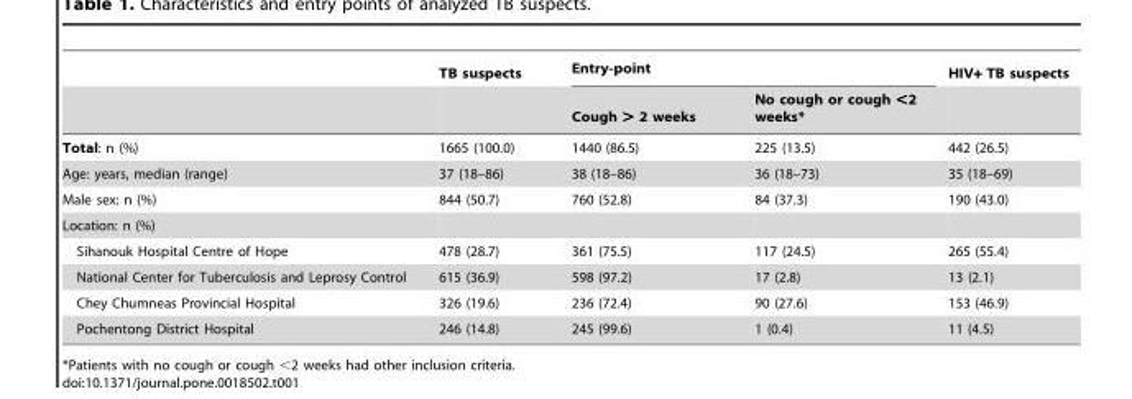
<table><thead><tr><td rowspan="2"></td><td rowspan="2">TB suspects</td><td colspan="2">Entry-point</td><td rowspan="2">HIV+ TB suspects</td></tr><tr><td>Cough &gt; 2 weeks</td><td>No cough or cough &lt;2 weeks*</td></tr></thead><tbody><tr><td>Total: n (%)</td><td>1665 (100.0)</td><td>1440 (86.5)</td><td>225 (13.5)</td><td>442 (26.5)</td></tr><tr><td>Age: years, median (range)</td><td>37 (18–86)</td><td>38 (18–86)</td><td>36 (18–73)</td><td>35 (18–69)</td></tr><tr><td>Male sex: n (%)</td><td>844 (50.7)</td><td>760 (52.8)</td><td>84 (37.3)</td><td>190 (43.0)</td></tr><tr><td colspan="5">Location: n (%)</td></tr><tr><td>Sihanouk Hospital Centre of Hope</td><td>478 (28.7)</td><td>361 (75.5)</td><td>117 (24.5)</td><td>265 (55.4)</td></tr><tr><td>National Center for Tuberculosis and Leprosy Control</td><td>615 (36.9)</td><td>598 (97.2)</td><td>17 (2.8)</td><td>13 (2.1)</td></tr><tr><td>Chey Chumneas Provincial Hospital</td><td>326 (19.6)</td><td>236 (72.4)</td><td>90 (27.6)</td><td>153 (46.9)</td></tr><tr><td>Pochentong District Hospital</td><td>246 (14.8)</td><td>245 (99.6)</td><td>1 (0.4)</td><td>11 (4.5)</td></tr></tbody></table>